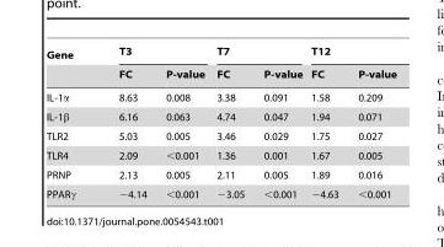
<table><thead><tr><td rowspan="2">Gene</td><td colspan="2">T3</td><td colspan="2">T7</td><td colspan="2">T12</td></tr><tr><td>FC</td><td>P-value</td><td>FC</td><td>P-value</td><td>FC</td><td>P-value</td></tr></thead><tbody><tr><td>IL-1α</td><td>8.63</td><td>0.008</td><td>3.38</td><td>0.091</td><td>1.58</td><td>0.209</td></tr><tr><td>IL-1β</td><td>6.16</td><td>0.063</td><td>4.74</td><td>0.047</td><td>1.94</td><td>0.071</td></tr><tr><td>TLR2</td><td>5.03</td><td>0.005</td><td>3.46</td><td>0.029</td><td>1.75</td><td>0.027</td></tr><tr><td>TLR4</td><td>2.09</td><td>&lt;0.001</td><td>1.36</td><td>0.001</td><td>1.67</td><td>0.005</td></tr><tr><td>PRNP</td><td>2.13</td><td>0.005</td><td>2.11</td><td>0.005</td><td>1.89</td><td>0.016</td></tr><tr><td>PPARγ</td><td>−4.14</td><td>&lt;0.001</td><td>−3.05</td><td>&lt;0.001</td><td>−4.63</td><td>&lt;0.001</td></tr></tbody></table>